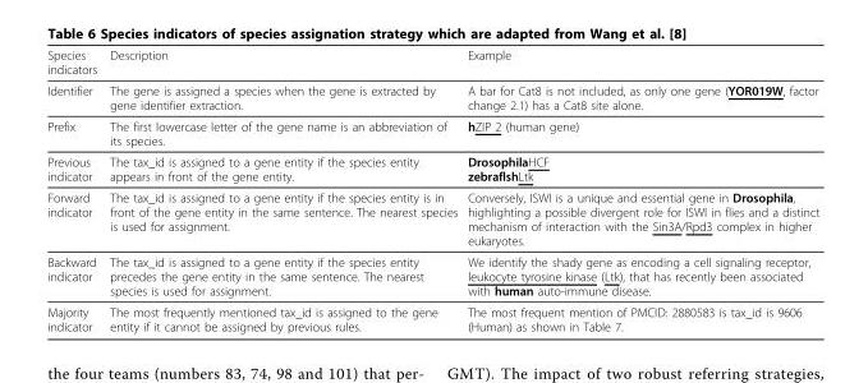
<table><thead><tr><td>Species indicators</td><td>Description</td><td>Example</td></tr></thead><tbody><tr><td>Identifier</td><td>The gene is assigned a species when the gene is extracted by gene identifier extraction.</td><td>A bar for Cat8 is not included, as only one gene (YOR019W, factor change 2.1) has a Cat8 site alone.</td></tr><tr><td>Prefix</td><td>The first lowercase letter of the gene name is an abbreviation of its species.</td><td>hZIP 2 (human gene)</td></tr><tr><td>Previous indicator</td><td>The tax_id is assigned to a gene entity if the species entity appears in front of the gene entity.</td><td>DrosophilaHCF zebraflshLtk</td></tr><tr><td>Forward indicator</td><td>The tax_id is assigned to a gene entity if the species entity is in front of the gene entity in the same sentence. The nearest species is used for assignment.</td><td>Conversely, ISWI is a unique and essential gene in Drosophila, highlighting a possible divergent role for ISWI in flies and a distinct mechanism of interaction with the Sin3A/Rpd3 complex in higher eukaryotes.</td></tr><tr><td>Backward indicator</td><td>The tax_id is assigned to a gene entity if the species entity precedes the gene entity in the same sentence. The nearest species is used for assignment.</td><td>We identify the shady gene as encoding a cell signaling receptor, leukocyte tyrosine kinase (Ltk), that has recently been associated with human auto-immune disease.</td></tr><tr><td>Majority indicator</td><td>The most frequently mentioned tax_id is assigned to the gene entity if it cannot be assigned by previous rules.</td><td>The most frequent mention of PMCID: 2880583 is tax_id is 9606 (Human) as shown in Table 7.</td></tr></tbody></table>